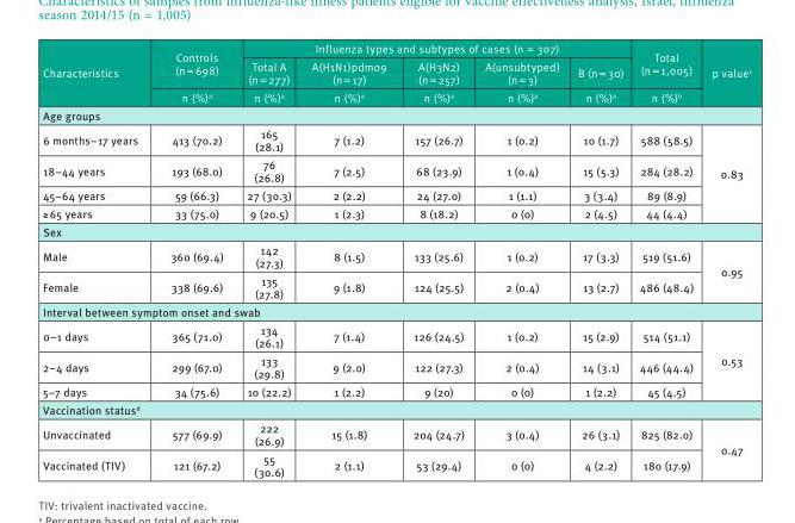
<table><thead><tr><td rowspan="3">Characteristics</td><td rowspan="3">Controls (n = 698) n (%)<sup>a</sup></td><td colspan="5">Influenza types and subtypes of cases (n = 307)</td><td rowspan="3">Total (n = 1,005) n (%)<sup>b</sup></td><td rowspan="3">p value<sup>c</sup></td></tr><tr><td rowspan="2">Total A (n = 277) n (%)<sup>a</sup></td><td rowspan="2">A(H1N1)pdm09 (n = 17) n (%)<sup>a</sup></td><td rowspan="2">A(H3N2) (n = 257) n (%)<sup>a</sup></td><td rowspan="2">A(unsubtyped) (n = 3) n (%)<sup>a</sup></td><td rowspan="2">B (n = 30) n (%)<sup>a</sup></td></tr><tr></tr></thead><tbody><tr><td colspan="9">Age groups</td></tr><tr><td>6 months–17 years</td><td>413 (70.2)</td><td>165 (28.1)</td><td>7 (1.2)</td><td>157 (26.7)</td><td>1 (0.2)</td><td>10 (1.7)</td><td>588 (58.5)</td><td rowspan="4">0.83</td></tr><tr><td>18–44 years</td><td>193 (68.0)</td><td>76 (26.8)</td><td>7 (2.5)</td><td>68 (23.9)</td><td>1 (0.4)</td><td>15 (5.3)</td><td>284 (28.2)</td></tr><tr><td>45–64 years</td><td>59 (66.3)</td><td>27 (30.3)</td><td>2 (2.2)</td><td>24 (27.0)</td><td>1 (1.1)</td><td>3 (3.4)</td><td>89 (8.9)</td></tr><tr><td>≥ 65 years</td><td>33 (75.0)</td><td>9 (20.5)</td><td>1 (2.3)</td><td>8 (18.2)</td><td>0 (0)</td><td>2 (4.5)</td><td>44 (4.4)</td></tr><tr><td colspan="9">Sex</td></tr><tr><td>Male</td><td>360 (69.4)</td><td>142 (27.3)</td><td>8 (1.5)</td><td>133 (25.6)</td><td>1 (0.2)</td><td>17 (3.3)</td><td>519 (51.6)</td><td rowspan="2">0.95</td></tr><tr><td>Female</td><td>338 (69.6)</td><td>135 (27.8)</td><td>9 (1.8)</td><td>124 (25.5)</td><td>2 (0.4)</td><td>13 (2.7)</td><td>486 (48.4)</td></tr><tr><td colspan="9">Interval between symptom onset and swab</td></tr><tr><td>0–1 days</td><td>365 (71.0)</td><td>134 (26.1)</td><td>7 (1.4)</td><td>126 (24.5)</td><td>1 (0.2)</td><td>15 (2.9)</td><td>514 (51.1)</td><td rowspan="3">0.53</td></tr><tr><td>2–4 days</td><td>299 (67.0)</td><td>133 (29.8)</td><td>9 (2.0)</td><td>122 (27.3)</td><td>2 (0.4)</td><td>14 (3.1)</td><td>446 (44.4)</td></tr><tr><td>5–7 days</td><td>34 (75.6)</td><td>10 (22.2)</td><td>1 (2.2)</td><td>9 (20)</td><td>0 (0)</td><td>1 (2.2)</td><td>45 (4.5)</td></tr><tr><td colspan="9">Vaccination status<sup>d</sup></td></tr><tr><td>Unvaccinated</td><td>577 (69.9)</td><td>222 (26.9)</td><td>15 (1.8)</td><td>204 (24.7)</td><td>3 (0.4)</td><td>26 (3.1)</td><td>825 (82.0)</td><td rowspan="2">0.47</td></tr><tr><td>Vaccinated (TIV)</td><td>121 (67.2)</td><td>55 (30.6)</td><td>2 (1.1)</td><td>53 (29.4)</td><td>0 (0)</td><td>4 (2.2)</td><td>180 (17.9)</td></tr></tbody></table>